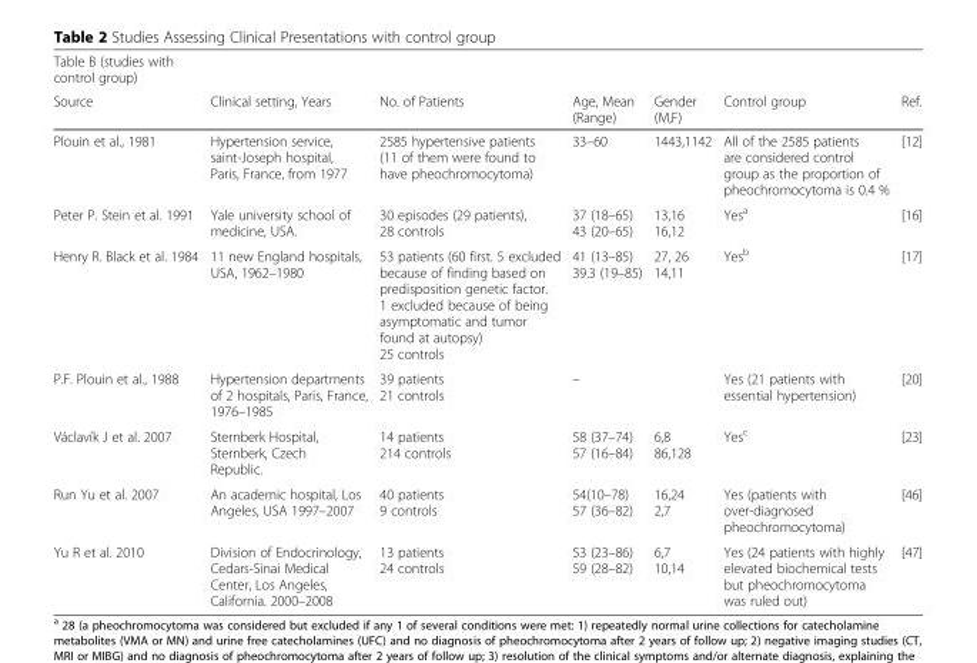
<table><thead><tr><td rowspan="2">Table B (studies with control group) Source</td><td rowspan="2">Clinical setting, Years</td><td rowspan="2">No. of Patients</td><td rowspan="2">Age, Mean (Range)</td><td rowspan="2">Gender (M,F)</td><td rowspan="2">Control group</td><td rowspan="2">Ref.</td></tr><tr></tr></thead><tbody><tr><td>Plouin et al., 1981</td><td>Hypertension service, saint-Joseph hospital, Paris, France, from 1977</td><td>2585 hypertensive patients (11 of them were found to have pheochromocytoma)</td><td>33–60</td><td>1443,1142</td><td>All of the 2585 patients are considered control group as the proportion of pheochromocytoma is 0.4 %</td><td>[12]</td></tr><tr><td>Peter P. Stein et al. 1991</td><td>Yale university school of medicine, USA.</td><td>30 episodes (29 patients), 28 controls</td><td>37 (18–65) 43 (20–65)</td><td>13,16 16,12</td><td>Yes<sup>a</sup></td><td>[16]</td></tr><tr><td>Henry R. Black et al. 1984</td><td>11 new England hospitals, USA, 1962–1980</td><td>53 patients (60 first. 5 excluded because of finding based on predisposition genetic factor. 1 excluded because of being asymptomatic and tumor found at autopsy) 25 controls</td><td>41 (13–85) 39.3 (19–85)</td><td>27, 26 14,11</td><td>Yes<sup>b</sup></td><td>[17]</td></tr><tr><td>P.F. Plouin et al., 1988</td><td>Hypertension departments of 2 hospitals, Paris, France, 1976–1985</td><td>39 patients 21 controls</td><td>–</td><td></td><td>Yes (21 patients with essential hypertension)</td><td>[20]</td></tr><tr><td>Václavík J et al. 2007</td><td>Sternberk Hospital, Sternberk, Czech Republic.</td><td>14 patients 214 controls</td><td>58 (37–74) 57 (16–84)</td><td>6,8 86,128</td><td>Yes<sup>c</sup></td><td>[23]</td></tr><tr><td>Run Yu et al. 2007</td><td>An academic hospital, Los Angeles, USA 1997–2007</td><td>40 patients 9 controls</td><td>54(10–78) 57 (36–82)</td><td>16,24 2,7</td><td>Yes (patients with over-diagnosed pheochromocytoma)</td><td>[46]</td></tr><tr><td>Yu R et al. 2010</td><td>Division of Endocrinology, Cedars-Sinai Medical Center, Los Angeles, California. 2000–2008</td><td>13 patients 24 controls</td><td>53 (23–86) 59 (28–82)</td><td>6,7 10,14</td><td>Yes (24 patients with highly elevated biochemical tests but pheochromocytoma was ruled out)</td><td>[47]</td></tr></tbody></table>